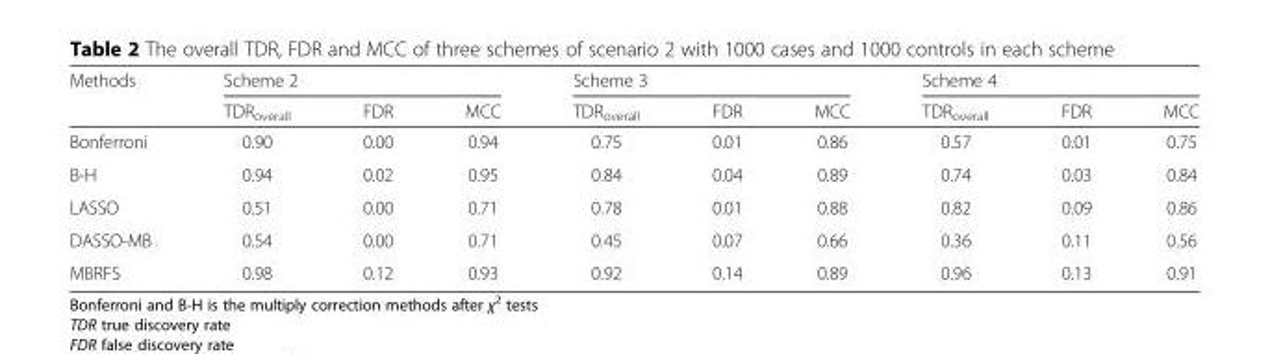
<table><thead><tr><td rowspan="2">Methods</td><td colspan="3">Scheme 2</td><td colspan="3">Scheme 3</td><td colspan="3">Scheme 4</td></tr><tr><td>TDR<sub>overall</sub></td><td>FDR</td><td>MCC</td><td>TDR<sub>overall</sub></td><td>FDR</td><td>MCC</td><td>TDR<sub>overall</sub></td><td>FDR</td><td>MCC</td></tr></thead><tbody><tr><td>Bonferroni</td><td>0.90</td><td>0.00</td><td>0.94</td><td>0.75</td><td>0.01</td><td>0.86</td><td>0.57</td><td>0.01</td><td>0.75</td></tr><tr><td>B-H</td><td>0.94</td><td>0.02</td><td>0.95</td><td>0.84</td><td>0.04</td><td>0.89</td><td>0.74</td><td>0.03</td><td>0.84</td></tr><tr><td>LASSO</td><td>0.51</td><td>0.00</td><td>0.71</td><td>0.78</td><td>0.01</td><td>0.88</td><td>0.82</td><td>0.09</td><td>0.86</td></tr><tr><td>DASSO-MB</td><td>0.54</td><td>0.00</td><td>0.71</td><td>0.45</td><td>0.07</td><td>0.66</td><td>0.36</td><td>0.11</td><td>0.56</td></tr><tr><td>MBRFS</td><td>0.98</td><td>0.12</td><td>0.93</td><td>0.92</td><td>0.14</td><td>0.89</td><td>0.96</td><td>0.13</td><td>0.91</td></tr></tbody></table>